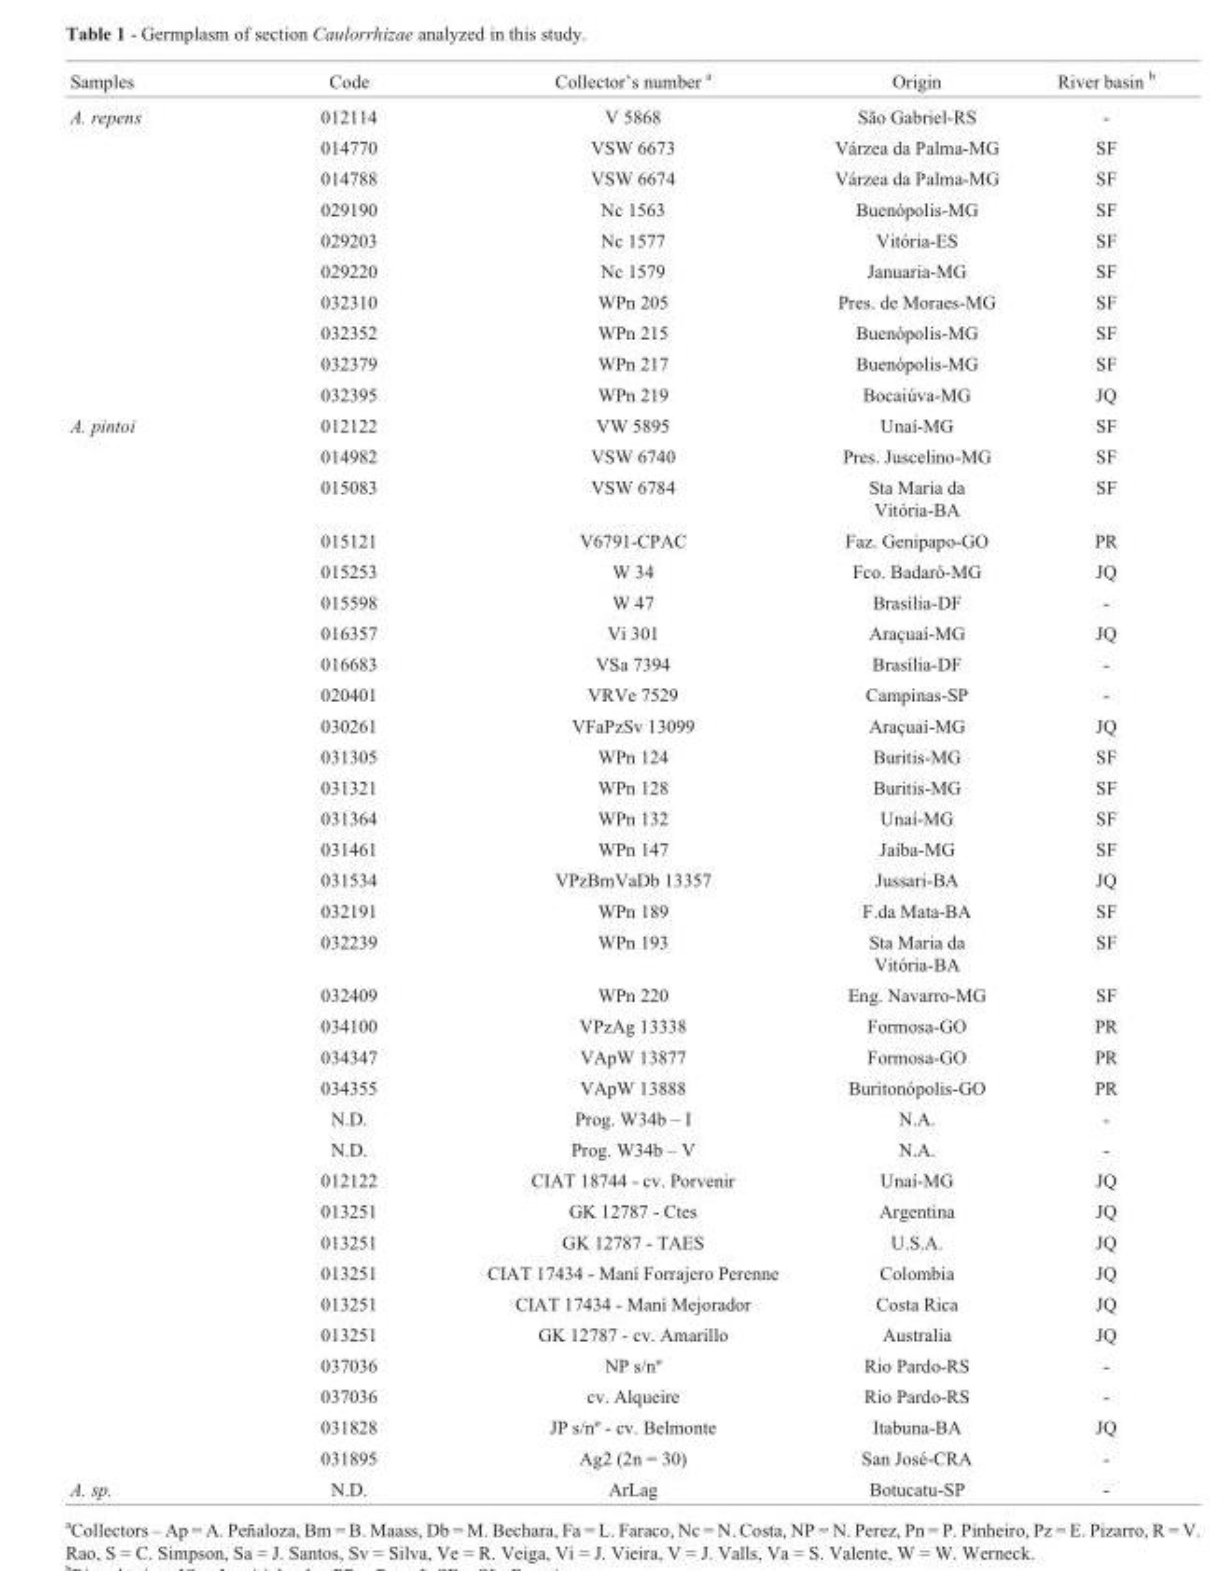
<table><thead><tr><td>Samples</td><td>Code</td><td>Collector’s number <sup>a</sup></td><td>Origin</td><td>River basin <sup>b</sup></td></tr></thead><tbody><tr><td rowspan="10">A. repens</td><td>012114</td><td>V 5868</td><td>São Gabriel-RS</td><td>-</td></tr><tr><td>014770</td><td>VSW 6673</td><td>Várzea da Palma-MG</td><td>SF</td></tr><tr><td>014788</td><td>VSW 6674</td><td>Várzea da Palma-MG</td><td>SF</td></tr><tr><td>029190</td><td>Nc 1563</td><td>Buenópolis-MG</td><td>SF</td></tr><tr><td>029203</td><td>Nc 1577</td><td>Vitória-ES</td><td>SF</td></tr><tr><td>029220</td><td>Nc 1579</td><td>Januaria-MG</td><td>SF</td></tr><tr><td>032310</td><td>WPn 205</td><td>Pres. de Moraes-MG</td><td>SF</td></tr><tr><td>032352</td><td>WPn 215</td><td>Buenópolis-MG</td><td>SF</td></tr><tr><td>032379</td><td>WPn 217</td><td>Buenópolis-MG</td><td>SF</td></tr><tr><td>032395</td><td>WPn 219</td><td>Bocaiúva-MG</td><td>JQ</td></tr><tr><td rowspan="33">A. pintoi</td><td>012122</td><td>VW 5895</td><td>Unaí-MG</td><td>SF</td></tr><tr><td>014982</td><td>VSW 6740</td><td>Pres. Juscelino-MG</td><td>SF</td></tr><tr><td>015083</td><td>VSW 6784</td><td>Sta Maria da Vitória-BA</td><td>SF</td></tr><tr><td>015121</td><td>V6791-CPAC</td><td>Faz. Genipapo-GO</td><td>PR</td></tr><tr><td>015253</td><td>W 34</td><td>Fco. Badaró-MG</td><td>JQ</td></tr><tr><td>015598</td><td>W 47</td><td>Brasília-DF</td><td>-</td></tr><tr><td>016357</td><td>Vi 301</td><td>Araçuaí-MG</td><td>JQ</td></tr><tr><td>016683</td><td>VSa 7394</td><td>Brasília-DF</td><td>-</td></tr><tr><td>020401</td><td>VRVe 7529</td><td>Campinas-SP</td><td>-</td></tr><tr><td>030261</td><td>VFaPzSv 13099</td><td>Araçuaí-MG</td><td>JQ</td></tr><tr><td>031305</td><td>WPn 124</td><td>Buritis-MG</td><td>SF</td></tr><tr><td>031321</td><td>WPn 128</td><td>Buritis-MG</td><td>SF</td></tr><tr><td>031364</td><td>WPn 132</td><td>Unaí-MG</td><td>SF</td></tr><tr><td>031461</td><td>WPn 147</td><td>Jaíba-MG</td><td>SF</td></tr><tr><td>031534</td><td>VPzBmVaDb 13357</td><td>Jussari-BA</td><td>JQ</td></tr><tr><td>032191</td><td>WPn 189</td><td>F.da Mata-BA</td><td>SF</td></tr><tr><td>032239</td><td>WPn 193</td><td>Sta Maria da Vitória-BA</td><td>SF</td></tr><tr><td>032409</td><td>WPn 220</td><td>Eng. Navarro-MG</td><td>SF</td></tr><tr><td>034100</td><td>VPzAg 13338</td><td>Formosa-GO</td><td>PR</td></tr><tr><td>034347</td><td>VApW 13877</td><td>Formosa-GO</td><td>PR</td></tr><tr><td>034355</td><td>VApW 13888</td><td>Buritonópolis-GO</td><td>PR</td></tr><tr><td>N.D.</td><td>Prog. W34b – I</td><td>N.A.</td><td>-</td></tr><tr><td>N.D.</td><td>Prog. W34b – V</td><td>N.A.</td><td>-</td></tr><tr><td>012122</td><td>CIAT 18744 - cv. Porvenir</td><td>Unaí-MG</td><td>JQ</td></tr><tr><td>013251</td><td>GK 12787 - Ctes</td><td>Argentina</td><td>JQ</td></tr><tr><td>013251</td><td>GK 12787 - TAES</td><td>U.S.A.</td><td>JQ</td></tr><tr><td>013251</td><td>CIAT 17434 - Maní Forrajero Perenne</td><td>Colombia</td><td>JQ</td></tr><tr><td>013251</td><td>CIAT 17434 - Maní Mejorador</td><td>Costa Rica</td><td>JQ</td></tr><tr><td>013251</td><td>GK 12787 - cv. Amarillo</td><td>Australia</td><td>JQ</td></tr><tr><td>037036</td><td>NP s/nº</td><td>Rio Pardo-RS</td><td>-</td></tr><tr><td>037036</td><td>cv. Alqueire</td><td>Rio Pardo-RS</td><td>-</td></tr><tr><td>031828</td><td>JP s/nº - cv. Belmonte</td><td>Itabuna-BA</td><td>JQ</td></tr><tr><td>031895</td><td>Ag2 (2n = 30)</td><td>San José-CRA</td><td>-</td></tr><tr><td>A. sp.</td><td>N.D.</td><td>ArLag</td><td>Botucatu-SP</td><td>-</td></tr></tbody></table>